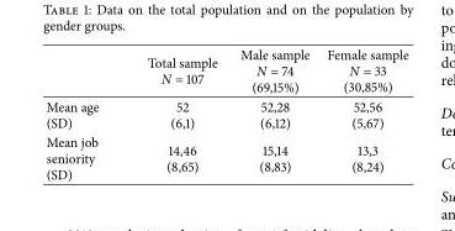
<table><thead><tr><td></td><td>Total sample N = 107</td><td>Male sample N = 74 (69,15%)</td><td>Female sample N = 33 (30,85%)</td></tr></thead><tbody><tr><td>Mean age (SD)</td><td>52 (6,1)</td><td>52,28 (6,12)</td><td>52,56 (5,67)</td></tr><tr><td>Mean job seniority (SD)</td><td>14,46 (8,65)</td><td>15,14 (8,83)</td><td>13,3 (8,24)</td></tr></tbody></table>